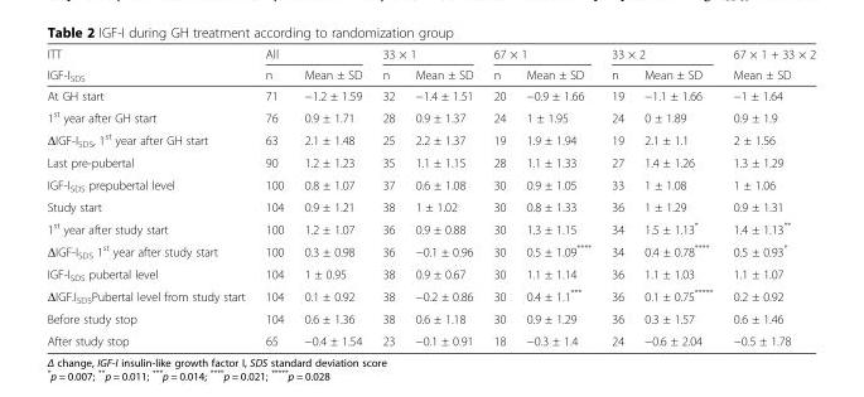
<table><thead><tr><td rowspan="2">ITT IGF-I<sub>SDS</sub></td><td colspan="2">All</td><td colspan="2">33 × 1</td><td colspan="2">67 × 1</td><td colspan="2">33 × 2</td><td rowspan="2">67 × 1 + 33 × 2 Mean ± SD</td></tr><tr><td>n</td><td>Mean ± SD</td><td>n</td><td>Mean ± SD</td><td>n</td><td>Mean ± SD</td><td>n</td><td>Mean ± SD</td></tr></thead><tbody><tr><td>At GH start</td><td>71</td><td>−1.2 ± 1.59</td><td>32</td><td>−1.4 ± 1.51</td><td>20</td><td>−0.9 ± 1.66</td><td>19</td><td>−1.1 ± 1.66</td><td>−1 ± 1.64</td></tr><tr><td>1<sup>st</sup> year after GH start</td><td>76</td><td>0.9 ± 1.71</td><td>28</td><td>0.9 ± 1.37</td><td>24</td><td>1 ± 1.95</td><td>24</td><td>0 ± 1.89</td><td>0.9 ± 1.9</td></tr><tr><td>ΔIGF-I<sub>SDS</sub>, 1<sup>st</sup> year after GH start</td><td>63</td><td>2.1 ± 1.48</td><td>25</td><td>2.2 ± 1.37</td><td>19</td><td>1.9 ± 1.94</td><td>19</td><td>2.1 ± 1.1</td><td>2 ± 1.56</td></tr><tr><td>Last pre-pubertal</td><td>90</td><td>1.2 ± 1.23</td><td>35</td><td>1.1 ± 1.15</td><td>28</td><td>1.1 ± 1.33</td><td>27</td><td>1.4 ± 1.26</td><td>1.3 ± 1.29</td></tr><tr><td>IGF-I<sub>SDS</sub> prepubertal level</td><td>100</td><td>0.8 ± 1.07</td><td>37</td><td>0.6 ± 1.08</td><td>30</td><td>0.9 ± 1.05</td><td>33</td><td>1 ± 1.08</td><td>1 ± 1.06</td></tr><tr><td>Study start</td><td>104</td><td>0.9 ± 1.21</td><td>38</td><td>1 ± 1.02</td><td>30</td><td>0.8 ± 1.33</td><td>36</td><td>1 ± 1.29</td><td>0.9 ± 1.31</td></tr><tr><td>1<sup>st</sup> year after study start</td><td>100</td><td>1.2 ± 1.07</td><td>36</td><td>0.9 ± 0.88</td><td>30</td><td>1.3 ± 1.15</td><td>34</td><td>1.5 ± 1.13*</td><td>1.4 ± 1.13**</td></tr><tr><td>ΔIGF-I<sub>SDS</sub> 1<sup>st</sup> year after study start</td><td>100</td><td>0.3 ± 0.98</td><td>36</td><td>−0.1 ± 0.96</td><td>30</td><td>0.5 ± 1.09****</td><td>34</td><td>0.4 ± 0.78****</td><td>0.5 ± 0.93*</td></tr><tr><td>IGF-I<sub>SDS</sub> pubertal level</td><td>104</td><td>1 ± 0.95</td><td>38</td><td>0.9 ± 0.67</td><td>30</td><td>1.1 ± 1.14</td><td>36</td><td>1.1 ± 1.03</td><td>1.1 ± 1.07</td></tr><tr><td>ΔIGF.I<sub>SDS</sub>Pubertal level from study start</td><td>104</td><td>0.1 ± 0.92</td><td>38</td><td>−0.2 ± 0.86</td><td>30</td><td>0.4 ± 1.1***</td><td>36</td><td>0.1 ± 0.75*****</td><td>0.2 ± 0.92</td></tr><tr><td>Before study stop</td><td>104</td><td>0.6 ± 1.36</td><td>38</td><td>0.6 ± 1.18</td><td>30</td><td>0.9 ± 1.29</td><td>36</td><td>0.3 ± 1.57</td><td>0.6 ± 1.46</td></tr><tr><td>After study stop</td><td>65</td><td>−0.4 ± 1.54</td><td>23</td><td>−0.1 ± 0.91</td><td>18</td><td>−0.3 ± 1.4</td><td>24</td><td>−0.6 ± 2.04</td><td>−0.5 ± 1.78</td></tr></tbody></table>